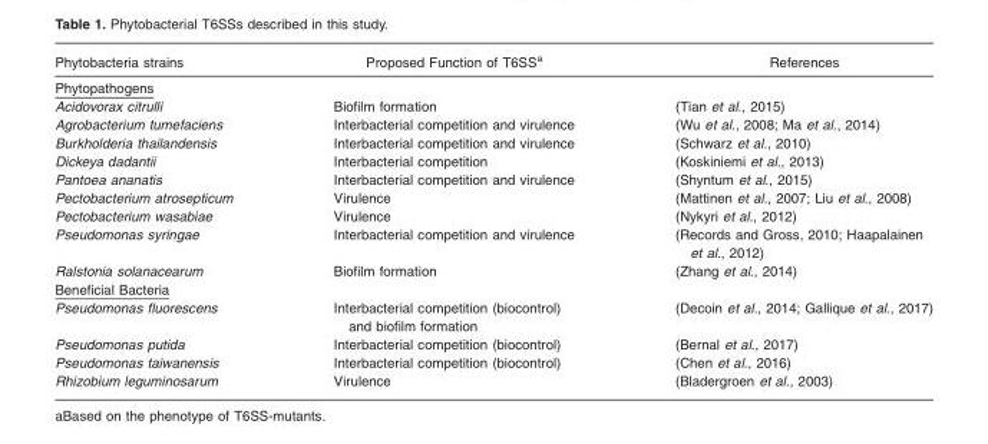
<table><thead><tr><td>Phytobacteria strains</td><td>Proposed Function of T6SS<sup>a</sup></td><td>References</td></tr></thead><tbody><tr><td colspan="3">Phytopathogens</td></tr><tr><td>Acidovorax citrulli</td><td>Biofilm formation</td><td>(Tian et al., 2015)</td></tr><tr><td>Agrobacterium tumefaciens</td><td>Interbacterial competition and virulence</td><td>(Wu et al., 2008; Ma et al., 2014)</td></tr><tr><td>Burkholderia thailandensis</td><td>Interbacterial competition and virulence</td><td>(Schwarz et al., 2010)</td></tr><tr><td>Dickeya dadantii</td><td>Interbacterial competition</td><td>(Koskiniemi et al., 2013)</td></tr><tr><td>Pantoea ananatis</td><td>Interbacterial competition and virulence</td><td>(Shyntum et al., 2015)</td></tr><tr><td>Pectobacterium atrosepticum</td><td>Virulence</td><td>(Mattinen et al., 2007; Liu et al., 2008)</td></tr><tr><td>Pectobacterium wasabiae</td><td>Virulence</td><td>(Nykyri et al., 2012)</td></tr><tr><td>Pseudomonas syringae</td><td>Interbacterial competition and virulence</td><td>(Records and Gross, 2010; Haapalainen et al., 2012)</td></tr><tr><td>Ralstonia solanacearum</td><td>Biofilm formation</td><td>(Zhang et al., 2014)</td></tr><tr><td colspan="3">Beneficial Bacteria</td></tr><tr><td>Pseudomonas fluorescens</td><td>Interbacterial competition (biocontrol) and biofilm formation</td><td>(Decoin et al., 2014; Gallique et al., 2017)</td></tr><tr><td>Pseudomonas putida</td><td>Interbacterial competition (biocontrol)</td><td>(Bernal et al., 2017)</td></tr><tr><td>Pseudomonas taiwanensis</td><td>Interbacterial competition (biocontrol)</td><td>(Chen et al., 2016)</td></tr><tr><td>Rhizobium leguminosarum</td><td>Virulence</td><td>(Bladergroen et al., 2003)</td></tr></tbody></table>